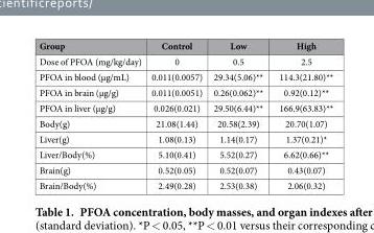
<table><thead><tr><td>Group</td><td>Control</td><td>Low</td><td>High</td></tr></thead><tbody><tr><td>Dose of PFOA (mg/kg/day)</td><td>0</td><td>0.5</td><td>2.5</td></tr><tr><td>PFOA in blood (μg/mL)</td><td>0.011(0.0057)</td><td>29.34(5.06)**</td><td>114.3(21.80)**</td></tr><tr><td>PFOA in brain (μg/g)</td><td>0.011(0.0051)</td><td>0.26(0.062)**</td><td>0.92(0.12)**</td></tr><tr><td>PFOA in liver (μg/g)</td><td>0.026(0.021)</td><td>29.50(6.44)**</td><td>166.9(63.83)**</td></tr><tr><td>Body(g)</td><td>21.08(1.44)</td><td>20.58(2.39)</td><td>20.70(1.07)</td></tr><tr><td>Liver(g)</td><td>1.08(0.13)</td><td>1.14(0.17)</td><td>1.37(0.21)*</td></tr><tr><td>Liver/Body(%)</td><td>5.10(0.41)</td><td>5.52(0.27)</td><td>6.62(0.66)**</td></tr><tr><td>Brain(g)</td><td>0.52(0.05)</td><td>0.52(0.07)</td><td>0.43(0.07)</td></tr><tr><td>Brain/Body(%)</td><td>2.49(0.28)</td><td>2.53(0.38)</td><td>2.06(0.32)</td></tr></tbody></table>